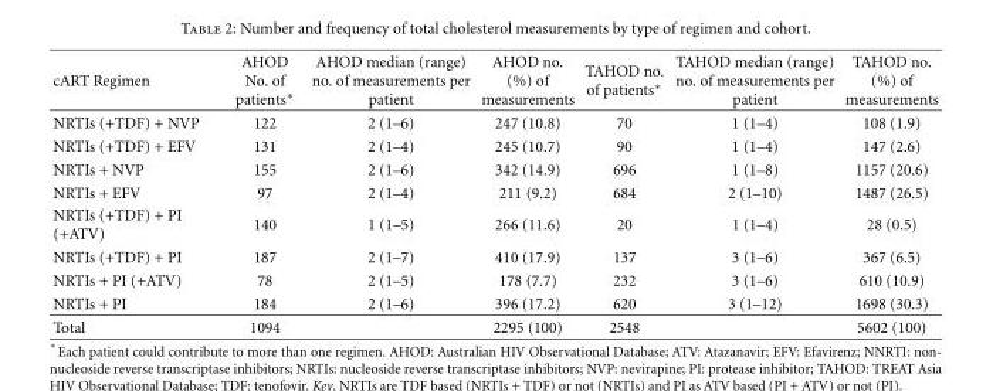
<table><thead><tr><td>cART Regimen</td><td>AHOD No. of patients∗</td><td>AHOD median (range) no. of measurements per patient</td><td>AHOD no. (%) of measurements</td><td>TAHOD no. of patients∗</td><td>TAHOD median (range) no. of measurements per patient</td><td>TAHOD no. (%) of measurements</td></tr></thead><tbody><tr><td>NRTIs (+TDF) + NVP</td><td>122</td><td>2 (1–6)</td><td>247 (10.8)</td><td>70</td><td>1 (1–4)</td><td>108 (1.9)</td></tr><tr><td>NRTIs (+TDF) + EFV</td><td>131</td><td>2 (1–4)</td><td>245 (10.7)</td><td>90</td><td>1 (1–4)</td><td>147 (2.6)</td></tr><tr><td>NRTIs + NVP</td><td>155</td><td>2 (1–6)</td><td>342 (14.9)</td><td>696</td><td>1 (1–8)</td><td>1157 (20.6)</td></tr><tr><td>NRTIs + EFV</td><td>97</td><td>2 (1–4)</td><td>211 (9.2)</td><td>684</td><td>2 (1–10)</td><td>1487 (26.5)</td></tr><tr><td>NRTIs (+TDF) + PI (+ATV)</td><td>140</td><td>1 (1–5)</td><td>266 (11.6)</td><td>20</td><td>1 (1–4)</td><td>28 (0.5)</td></tr><tr><td>NRTIs (+TDF) + PI</td><td>187</td><td>2 (1–7)</td><td>410 (17.9)</td><td>137</td><td>3 (1–6)</td><td>367 (6.5)</td></tr><tr><td>NRTIs + PI (+ATV)</td><td>78</td><td>2 (1–5)</td><td>178 (7.7)</td><td>232</td><td>3 (1–6)</td><td>610 (10.9)</td></tr><tr><td>NRTIs + PI</td><td>184</td><td>2 (1–6)</td><td>396 (17.2)</td><td>620</td><td>3 (1–12)</td><td>1698 (30.3)</td></tr><tr><td>Total</td><td>1094</td><td></td><td>2295 (100)</td><td>2548</td><td></td><td>5602 (100)</td></tr></tbody></table>